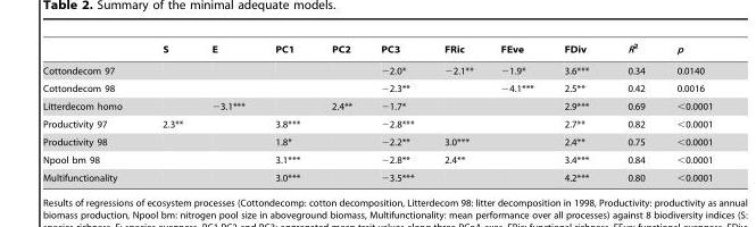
<table><thead><tr><td></td><td>S</td><td>E</td><td>PC1</td><td>PC2</td><td>PC3</td><td>FRic</td><td>FEve</td><td>FDiv</td><td>R<sup>2</sup></td><td>p</td></tr></thead><tbody><tr><td>Cottondecom 97</td><td></td><td></td><td></td><td></td><td>−2.0*</td><td>−2.1**</td><td>−1.9*</td><td>3.6***</td><td>0.34</td><td>0.0140</td></tr><tr><td>Cottondecom 98</td><td></td><td></td><td></td><td></td><td>−2.3**</td><td></td><td>−4.1***</td><td>2.5**</td><td>0.42</td><td>0.0016</td></tr><tr><td>Litterdecom homo</td><td></td><td>−3.1***</td><td></td><td>2.4**</td><td>−1.7*</td><td></td><td></td><td>2.9***</td><td>0.69</td><td>&lt;0.0001</td></tr><tr><td>Productivity 97</td><td>2.3**</td><td></td><td>3.8***</td><td></td><td>−2.8***</td><td></td><td></td><td>2.7**</td><td>0.82</td><td>&lt;0.0001</td></tr><tr><td>Productivity 98</td><td></td><td></td><td>1.8*</td><td></td><td>−2.2**</td><td>3.0***</td><td></td><td>2.4**</td><td>0.75</td><td>&lt;0.0001</td></tr><tr><td>Npool bm 98</td><td></td><td></td><td>3.1***</td><td></td><td>−2.8**</td><td>2.4**</td><td></td><td>3.4***</td><td>0.84</td><td>&lt;0.0001</td></tr><tr><td>Multifunctionality</td><td></td><td></td><td>3.0***</td><td></td><td>−3.5***</td><td></td><td></td><td>4.2***</td><td>0.80</td><td>&lt;0.0001</td></tr></tbody></table>